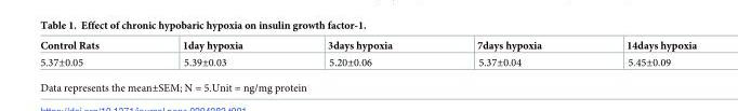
<table><thead><tr><td>Control Rats</td><td>1day hypoxia</td><td>3days hypoxia</td><td>7days hypoxia</td><td>14days hypoxia</td></tr></thead><tbody><tr><td>5.37±0.05</td><td>5.39±0.03</td><td>5.20±0.06</td><td>5.37±0.04</td><td>5.45±0.09</td></tr></tbody></table>